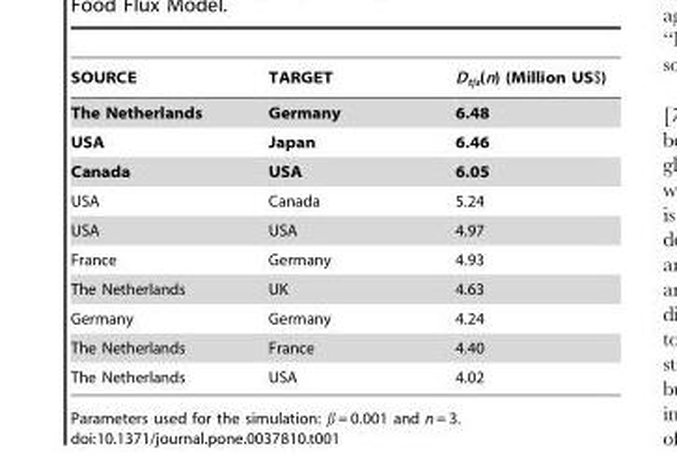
<table><thead><tr><td>SOURCE</td><td>TARGET</td><td>D<sub>t|s</sub>(n) (Million US$)</td></tr></thead><tbody><tr><td>The Netherlands</td><td>Germany</td><td>6.48</td></tr><tr><td>USA</td><td>Japan</td><td>6.46</td></tr><tr><td>Canada</td><td>USA</td><td>6.05</td></tr><tr><td>USA</td><td>Canada</td><td>5.24</td></tr><tr><td>USA</td><td>USA</td><td>4.97</td></tr><tr><td>France</td><td>Germany</td><td>4.93</td></tr><tr><td>The Netherlands</td><td>UK</td><td>4.63</td></tr><tr><td>Germany</td><td>Germany</td><td>4.24</td></tr><tr><td>The Netherlands</td><td>France</td><td>4.40</td></tr><tr><td>The Netherlands</td><td>USA</td><td>4.02</td></tr></tbody></table>